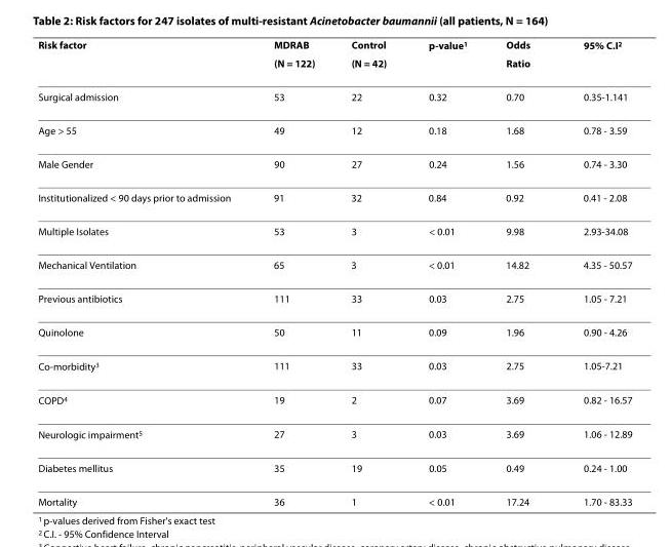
<table><thead><tr><td rowspan="2">Risk factor</td><td rowspan="2">MDRAB (N = 122)</td><td rowspan="2">Control (N = 42)</td><td rowspan="2">p-value<sup>1</sup></td><td rowspan="2">Odds Ratio</td><td rowspan="2">95% C.I<sup>2</sup></td></tr><tr></tr></thead><tbody><tr><td>Surgical admission</td><td>53</td><td>22</td><td>0.32</td><td>0.70</td><td>0.35-1.141</td></tr><tr><td>Age &gt; 55</td><td>49</td><td>12</td><td>0.18</td><td>1.68</td><td>0.78 - 3.59</td></tr><tr><td>Male Gender</td><td>90</td><td>27</td><td>0.24</td><td>1.56</td><td>0.74 - 3.30</td></tr><tr><td>Institutionalized &lt; 90 days prior to admission</td><td>91</td><td>32</td><td>0.84</td><td>0.92</td><td>0.41 - 2.08</td></tr><tr><td>Multiple Isolates</td><td>53</td><td>3</td><td>&lt; 0.01</td><td>9.98</td><td>2.93-34.08</td></tr><tr><td>Mechanical Ventilation</td><td>65</td><td>3</td><td>&lt; 0.01</td><td>14.82</td><td>4.35 - 50.57</td></tr><tr><td>Previous antibiotics</td><td>111</td><td>33</td><td>0.03</td><td>2.75</td><td>1.05 - 7.21</td></tr><tr><td>Quinolone</td><td>50</td><td>11</td><td>0.09</td><td>1.96</td><td>0.90 - 4.26</td></tr><tr><td>Co-morbidity<sup>3</sup></td><td>111</td><td>33</td><td>0.03</td><td>2.75</td><td>1.05-7.21</td></tr><tr><td>COPD<sup>4</sup></td><td>19</td><td>2</td><td>0.07</td><td>3.69</td><td>0.82 - 16.57</td></tr><tr><td>Neurologic impairment<sup>5</sup></td><td>27</td><td>3</td><td>0.03</td><td>3.69</td><td>1.06 - 12.89</td></tr><tr><td>Diabetes mellitus</td><td>35</td><td>19</td><td>0.05</td><td>0.49</td><td>0.24 - 1.00</td></tr><tr><td>Mortality</td><td>36</td><td>1</td><td>&lt; 0.01</td><td>17.24</td><td>1.70 - 83.33</td></tr></tbody></table>